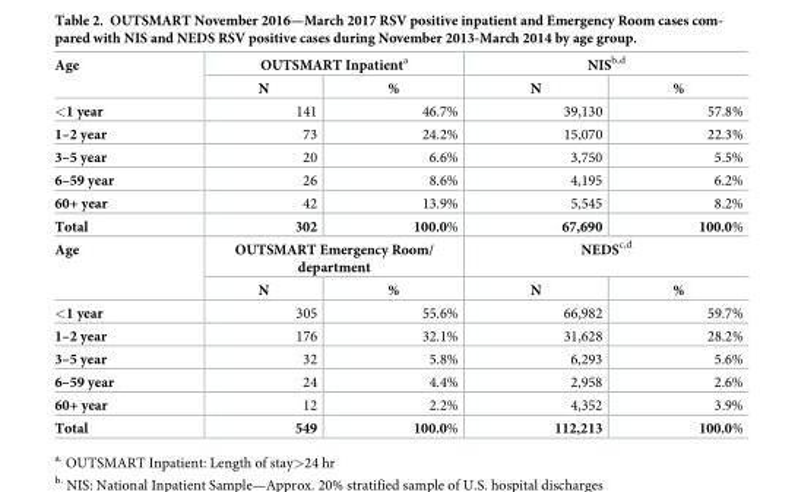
<table><tbody><tr><td rowspan="2">Age</td><td colspan="2">OUTSMART Inpatient<sup>a</sup></td><td colspan="2">NIS<sup>b,d</sup></td></tr><tr><td>N</td><td>%</td><td>N</td><td>%</td></tr><tr><td>&lt;1 year</td><td>141</td><td>46.7%</td><td>39,130</td><td>57.8%</td></tr><tr><td>1–2 year</td><td>73</td><td>24.2%</td><td>15,070</td><td>22.3%</td></tr><tr><td>3–5 year</td><td>20</td><td>6.6%</td><td>3,750</td><td>5.5%</td></tr><tr><td>6–59 year</td><td>26</td><td>8.6%</td><td>4,195</td><td>6.2%</td></tr><tr><td>60+ year</td><td>42</td><td>13.9%</td><td>5,545</td><td>8.2%</td></tr><tr><td>Total</td><td>302</td><td>100.0%</td><td>67,690</td><td>100.0%</td></tr><tr><td rowspan="2">Age</td><td colspan="2">OUTSMART Emergency Room/ department</td><td colspan="2">NEDS<sup>c,d</sup></td></tr><tr><td>N</td><td>%</td><td>N</td><td>%</td></tr><tr><td>&lt;1 year</td><td>305</td><td>55.6%</td><td>66,982</td><td>59.7%</td></tr><tr><td>1–2 year</td><td>176</td><td>32.1%</td><td>31,628</td><td>28.2%</td></tr><tr><td>3–5 year</td><td>32</td><td>5.8%</td><td>6,293</td><td>5.6%</td></tr><tr><td>6–59 year</td><td>24</td><td>4.4%</td><td>2,958</td><td>2.6%</td></tr><tr><td>60+ year</td><td>12</td><td>2.2%</td><td>4,352</td><td>3.9%</td></tr><tr><td>Total</td><td>549</td><td>100.0%</td><td>112,213</td><td>100.0%</td></tr></tbody></table>